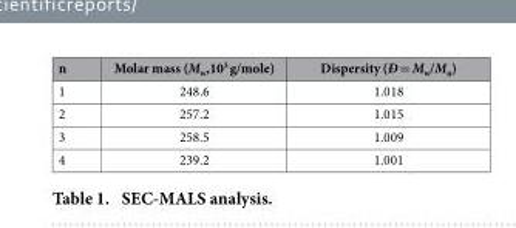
<table><thead><tr><td>n</td><td>Molar mass (M<sub>w</sub>,10<sup>3</sup> g/mole)</td><td>Dispersity (Ð = M<sub>w</sub>/M<sub>n</sub>)</td></tr></thead><tbody><tr><td>1</td><td>248.6</td><td>1.018</td></tr><tr><td>2</td><td>257.2</td><td>1.015</td></tr><tr><td>3</td><td>258.5</td><td>1.009</td></tr><tr><td>4</td><td>239.2</td><td>1.001</td></tr></tbody></table>